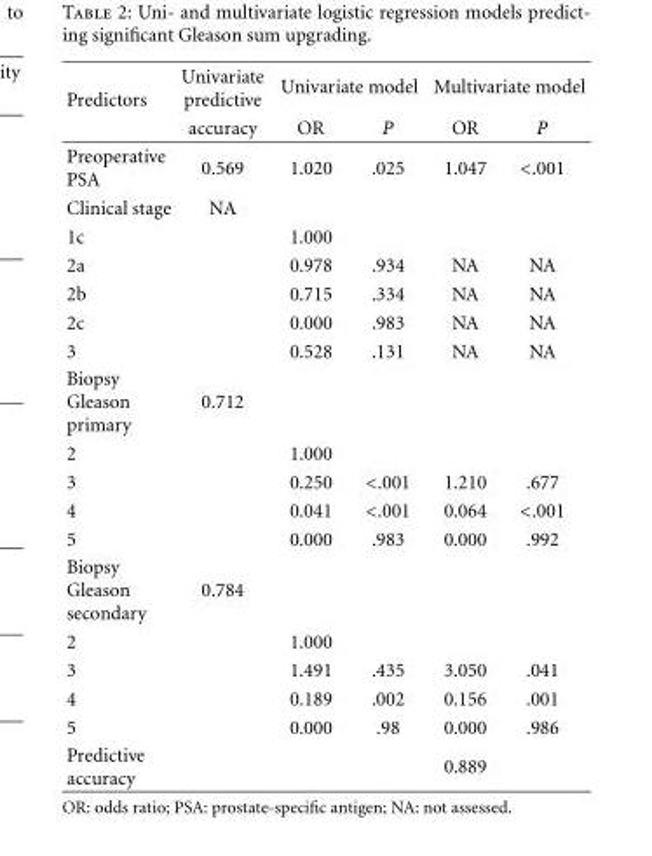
<table><thead><tr><td rowspan="2">Predictors</td><td rowspan="2">Univariate predictive accuracy</td><td colspan="2">Univariate model</td><td colspan="2">Multivariate model</td></tr><tr><td>OR</td><td>P</td><td>OR</td><td>P</td></tr></thead><tbody><tr><td>Preoperative PSA</td><td>0.569</td><td>1.020</td><td>.025</td><td>1.047</td><td>&lt;.001</td></tr><tr><td>Clinical stage</td><td>NA</td><td></td><td></td><td></td><td></td></tr><tr><td>1c</td><td></td><td>1.000</td><td></td><td></td><td></td></tr><tr><td>2a</td><td></td><td>0.978</td><td>.934</td><td>NA</td><td>NA</td></tr><tr><td>2b</td><td></td><td>0.715</td><td>.334</td><td>NA</td><td>NA</td></tr><tr><td>2c</td><td></td><td>0.000</td><td>.983</td><td>NA</td><td>NA</td></tr><tr><td>3</td><td></td><td>0.528</td><td>.131</td><td>NA</td><td>NA</td></tr><tr><td>Biopsy Gleason primary</td><td>0.712</td><td></td><td></td><td></td><td></td></tr><tr><td>2</td><td></td><td>1.000</td><td></td><td></td><td></td></tr><tr><td>3</td><td></td><td>0.250</td><td>&lt;.001</td><td>1.210</td><td>.677</td></tr><tr><td>4</td><td></td><td>0.041</td><td>&lt;.001</td><td>0.064</td><td>&lt;.001</td></tr><tr><td>5</td><td></td><td>0.000</td><td>.983</td><td>0.000</td><td>.992</td></tr><tr><td>Biopsy Gleason secondary</td><td>0.784</td><td></td><td></td><td></td><td></td></tr><tr><td>2</td><td></td><td>1.000</td><td></td><td></td><td></td></tr><tr><td>3</td><td></td><td>1.491</td><td>.435</td><td>3.050</td><td>.041</td></tr><tr><td>4</td><td></td><td>0.189</td><td>.002</td><td>0.156</td><td>.001</td></tr><tr><td>5</td><td></td><td>0.000</td><td>.98</td><td>0.000</td><td>.986</td></tr><tr><td>Predictive accuracy</td><td></td><td></td><td></td><td>0.889</td><td></td></tr></tbody></table>